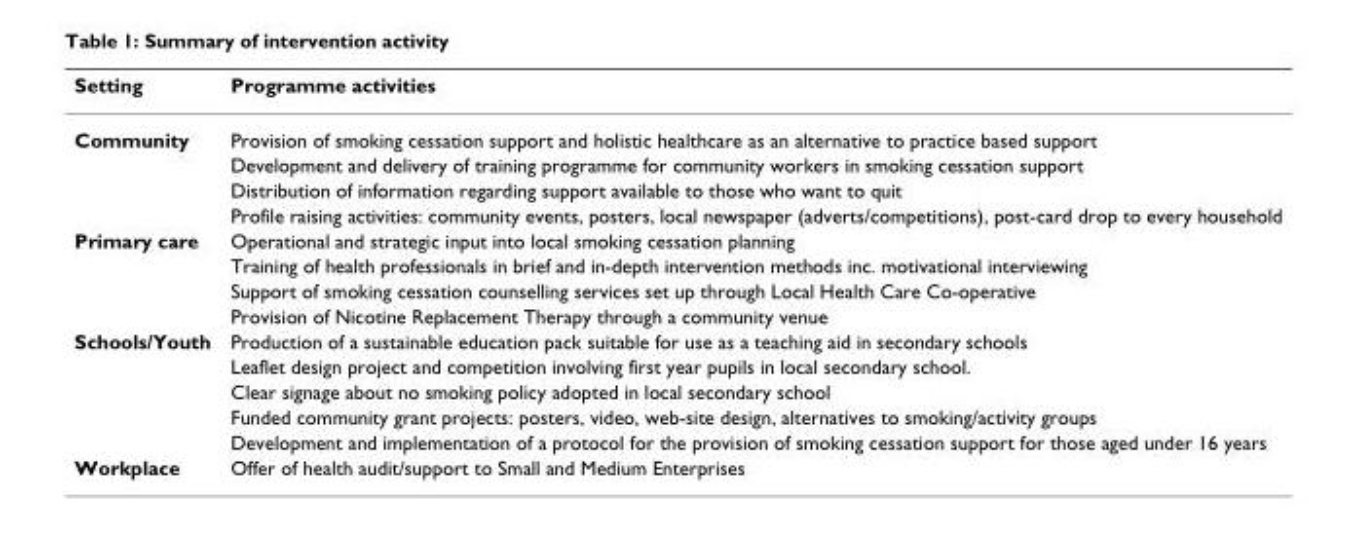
<table><thead><tr><td>Setting</td><td>Programme activities</td></tr></thead><tbody><tr><td rowspan="4">Community</td><td>Provision of smoking cessation support and holistic healthcare as an alternative to practice based support</td></tr><tr><td>Development and delivery of training programme for community workers in smoking cessation support</td></tr><tr><td>Distribution of information regarding support available to those who want to quit</td></tr><tr><td>Profile raising activities: community events, posters, local newspaper (adverts/competitions), post-card drop to every household</td></tr><tr><td rowspan="4">Primary care</td><td>Operational and strategic input into local smoking cessation planning</td></tr><tr><td>Training of health professionals in brief and in-depth intervention methods inc. motivational interviewing</td></tr><tr><td>Support of smoking cessation counselling services set up through Local Health Care Co-operative</td></tr><tr><td>Provision of Nicotine Replacement Therapy through a community venue</td></tr><tr><td rowspan="5">Schools/Youth</td><td>Production of a sustainable education pack suitable for use as a teaching aid in secondary schools</td></tr><tr><td>Leaflet design project and competition involving first year pupils in local secondary school.</td></tr><tr><td>Clear signage about no smoking policy adopted in local secondary school</td></tr><tr><td>Funded community grant projects: posters, video, web-site design, alternatives to smoking/activity groups</td></tr><tr><td>Development and implementation of a protocol for the provision of smoking cessation support for those aged under 16 years</td></tr><tr><td>Workplace</td><td>Offer of health audit/support to Small and Medium Enterprises</td></tr></tbody></table>